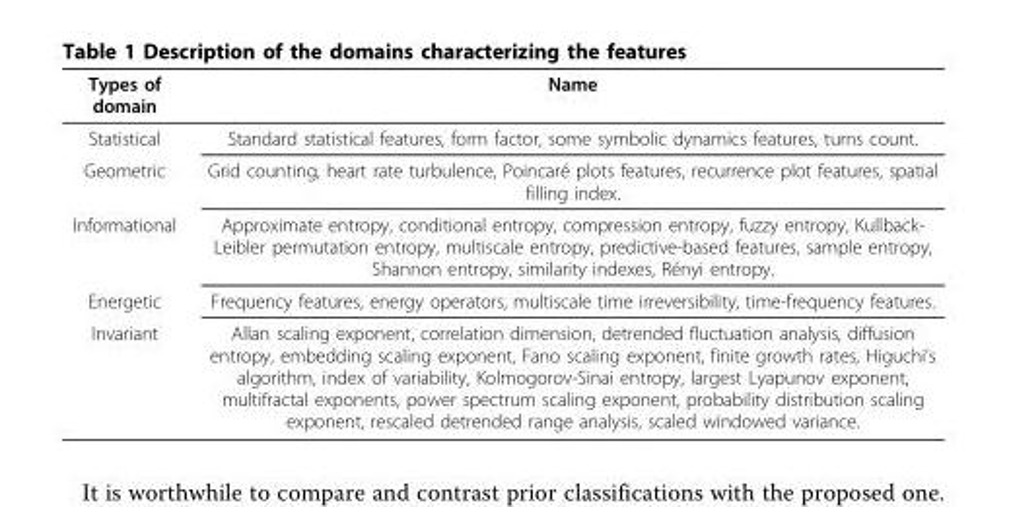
<table><thead><tr><td>Types of domain</td><td>Name</td></tr></thead><tbody><tr><td>Statistical</td><td>Standard statistical features, form factor, some symbolic dynamics features, turns count.</td></tr><tr><td>Geometric</td><td>Grid counting, heart rate turbulence, Poincaré plots features, recurrence plot features, spatial filling index.</td></tr><tr><td>Informational</td><td>Approximate entropy, conditional entropy, compression entropy, fuzzy entropy, Kullback- Leibler permutation entropy, multiscale entropy, predictive-based features, sample entropy, Shannon entropy, similarity indexes, Rényi entropy.</td></tr><tr><td>Energetic</td><td>Frequency features, energy operators, multiscale time irreversibility, time-frequency features.</td></tr><tr><td>Invariant</td><td>Allan scaling exponent, correlation dimension, detrended fluctuation analysis, diffusion entropy, embedding scaling exponent, Fano scaling exponent, finite growth rates, Higuchi’s algorithm, index of variability, Kolmogorov-Sinai entropy, largest Lyapunov exponent, multifractal exponents, power spectrum scaling exponent, probability distribution scaling exponent, rescaled detrended range analysis, scaled windowed variance.</td></tr></tbody></table>